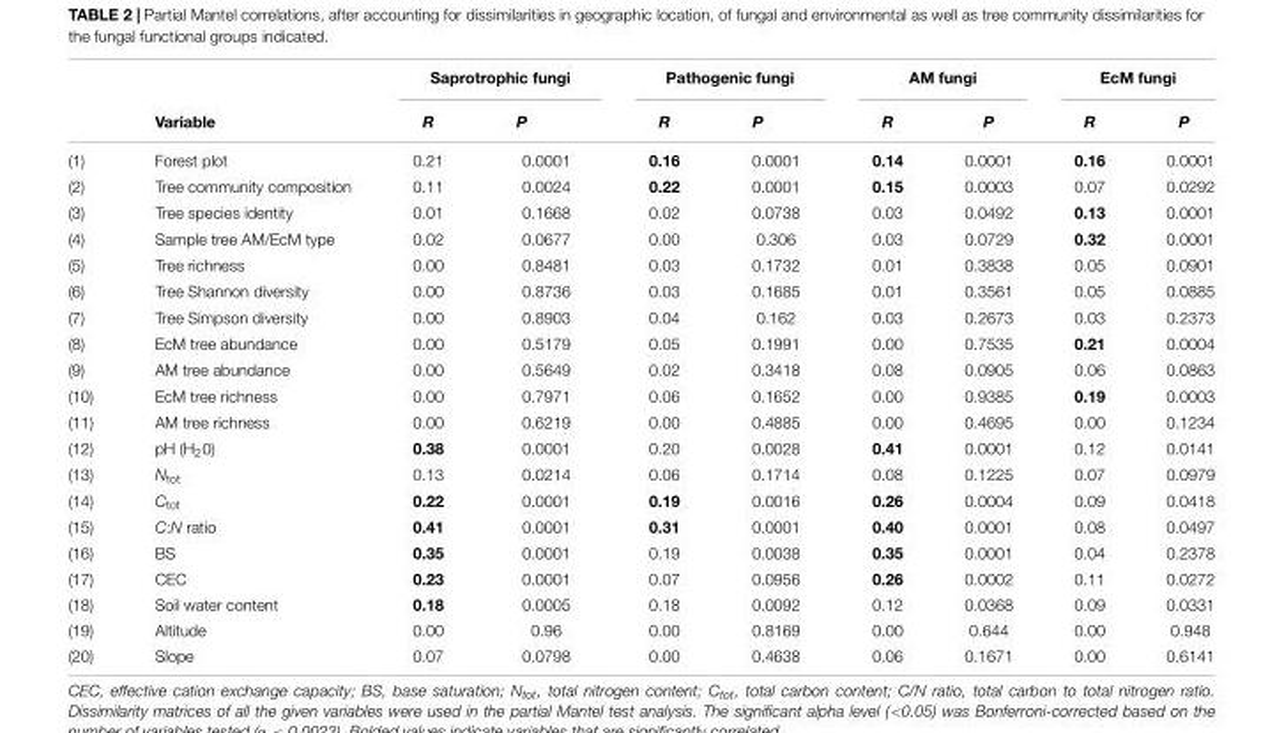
<table><thead><tr><td rowspan="2"></td><td rowspan="2">Variable</td><td colspan="2">Saprotrophic fungi</td><td colspan="2">Pathogenic fungi</td><td colspan="2">AM fungi</td><td colspan="2">EcM fungi</td></tr><tr><td>R</td><td>P</td><td>R</td><td>P</td><td>R</td><td>P</td><td>R</td><td>P</td></tr></thead><tbody><tr><td>(1)</td><td>Forest plot</td><td>0.21</td><td>0.0001</td><td>0.16</td><td>0.0001</td><td>0.14</td><td>0.0001</td><td>0.16</td><td>0.0001</td></tr><tr><td>(2)</td><td>Tree community composition</td><td>0.11</td><td>0.0024</td><td>0.22</td><td>0.0001</td><td>0.15</td><td>0.0003</td><td>0.07</td><td>0.0292</td></tr><tr><td>(3)</td><td>Tree species identity</td><td>0.01</td><td>0.1668</td><td>0.02</td><td>0.0738</td><td>0.03</td><td>0.0492</td><td>0.13</td><td>0.0001</td></tr><tr><td>(4)</td><td>Sample tree AM/EcM type</td><td>0.02</td><td>0.0677</td><td>0.00</td><td>0.306</td><td>0.03</td><td>0.0729</td><td>0.32</td><td>0.0001</td></tr><tr><td>(5)</td><td>Tree richness</td><td>0.00</td><td>0.8481</td><td>0.03</td><td>0.1732</td><td>0.01</td><td>0.3838</td><td>0.05</td><td>0.0901</td></tr><tr><td>(6)</td><td>Tree Shannon diversity</td><td>0.00</td><td>0.8736</td><td>0.03</td><td>0.1685</td><td>0.01</td><td>0.3561</td><td>0.05</td><td>0.0885</td></tr><tr><td>(7)</td><td>Tree Simpson diversity</td><td>0.00</td><td>0.8903</td><td>0.04</td><td>0.162</td><td>0.03</td><td>0.2673</td><td>0.03</td><td>0.2373</td></tr><tr><td>(8)</td><td>EcM tree abundance</td><td>0.00</td><td>0.5179</td><td>0.05</td><td>0.1991</td><td>0.00</td><td>0.7535</td><td>0.21</td><td>0.0004</td></tr><tr><td>(9)</td><td>AM tree abundance</td><td>0.00</td><td>0.5649</td><td>0.02</td><td>0.3418</td><td>0.08</td><td>0.0905</td><td>0.06</td><td>0.0863</td></tr><tr><td>(10)</td><td>EcM tree richness</td><td>0.00</td><td>0.7971</td><td>0.06</td><td>0.1652</td><td>0.00</td><td>0.9385</td><td>0.19</td><td>0.0003</td></tr><tr><td>(11)</td><td>AM tree richness</td><td>0.00</td><td>0.6219</td><td>0.00</td><td>0.4885</td><td>0.00</td><td>0.4695</td><td>0.00</td><td>0.1234</td></tr><tr><td>(12)</td><td>pH (H<sub>2</sub>0)</td><td>0.38</td><td>0.0001</td><td>0.20</td><td>0.0028</td><td>0.41</td><td>0.0001</td><td>0.12</td><td>0.0141</td></tr><tr><td>(13)</td><td>N<sub>tot</sub></td><td>0.13</td><td>0.0214</td><td>0.06</td><td>0.1714</td><td>0.08</td><td>0.1225</td><td>0.07</td><td>0.0979</td></tr><tr><td>(14)</td><td>C<sub>tot</sub></td><td>0.22</td><td>0.0001</td><td>0.19</td><td>0.0016</td><td>0.26</td><td>0.0004</td><td>0.09</td><td>0.0418</td></tr><tr><td>(15)</td><td>C:N ratio</td><td>0.41</td><td>0.0001</td><td>0.31</td><td>0.0001</td><td>0.40</td><td>0.0001</td><td>0.08</td><td>0.0497</td></tr><tr><td>(16)</td><td>BS</td><td>0.35</td><td>0.0001</td><td>0.19</td><td>0.0038</td><td>0.35</td><td>0.0001</td><td>0.04</td><td>0.2378</td></tr><tr><td>(17)</td><td>CEC</td><td>0.23</td><td>0.0001</td><td>0.07</td><td>0.0956</td><td>0.26</td><td>0.0002</td><td>0.11</td><td>0.0272</td></tr><tr><td>(18)</td><td>Soil water content</td><td>0.18</td><td>0.0005</td><td>0.18</td><td>0.0092</td><td>0.12</td><td>0.0368</td><td>0.09</td><td>0.0331</td></tr><tr><td>(19)</td><td>Altitude</td><td>0.00</td><td>0.96</td><td>0.00</td><td>0.8169</td><td>0.00</td><td>0.644</td><td>0.00</td><td>0.948</td></tr><tr><td>(20)</td><td>Slope</td><td>0.07</td><td>0.0798</td><td>0.00</td><td>0.4638</td><td>0.06</td><td>0.1671</td><td>0.00</td><td>0.6141</td></tr></tbody></table>